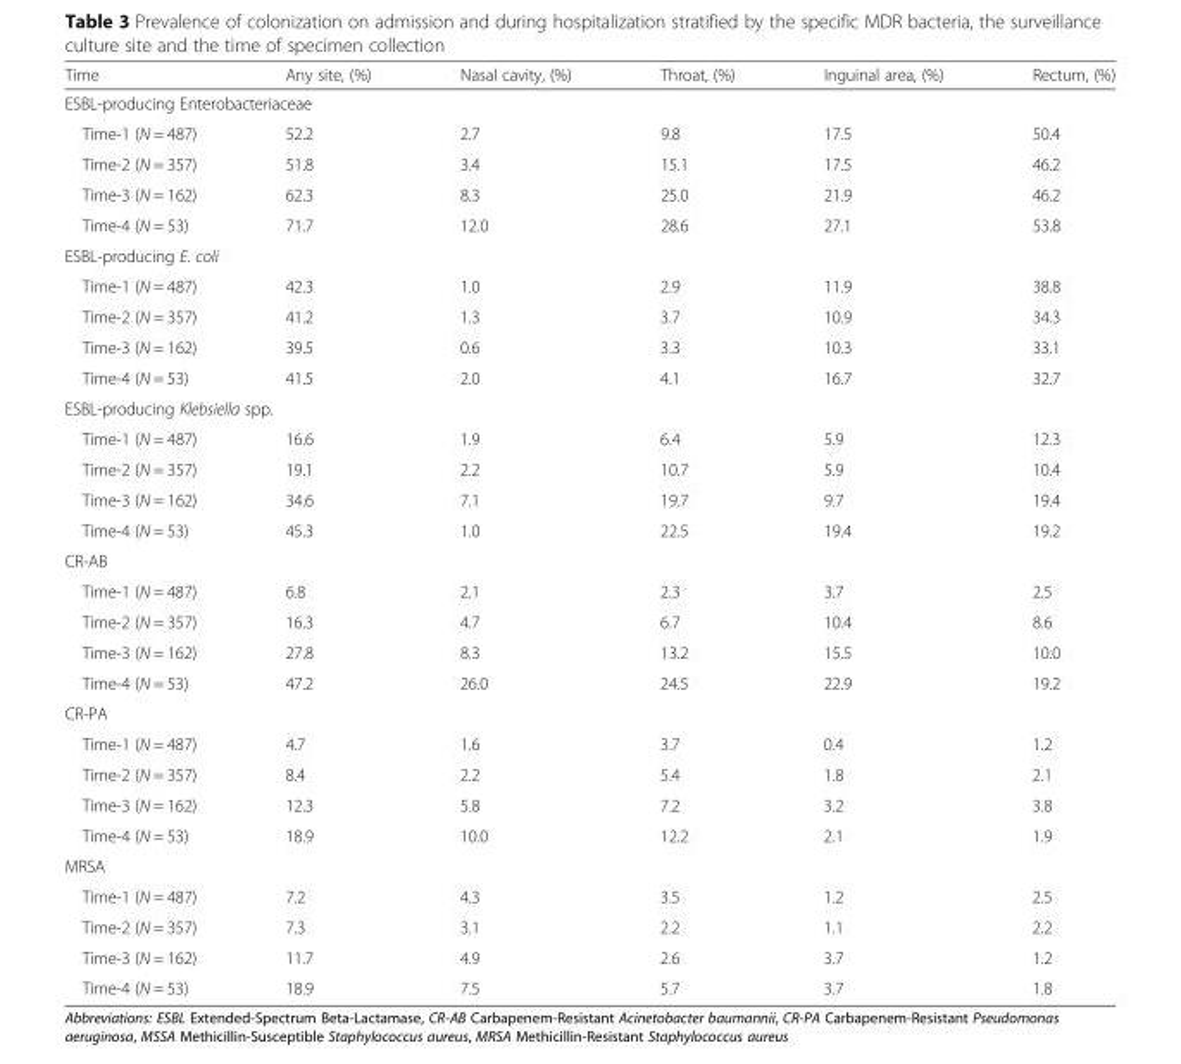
<table><thead><tr><td>Time</td><td>Any site, (%)</td><td>Nasal cavity, (%)</td><td>Throat, (%)</td><td>Inguinal area, (%)</td><td>Rectum, (%)</td></tr></thead><tbody><tr><td colspan="6">ESBL-producing Enterobacteriaceae</td></tr><tr><td>Time-1 (N = 487)</td><td>52.2</td><td>2.7</td><td>9.8</td><td>17.5</td><td>50.4</td></tr><tr><td>Time-2 (N = 357)</td><td>51.8</td><td>3.4</td><td>15.1</td><td>17.5</td><td>46.2</td></tr><tr><td>Time-3 (N = 162)</td><td>62.3</td><td>8.3</td><td>25.0</td><td>21.9</td><td>46.2</td></tr><tr><td>Time-4 (N = 53)</td><td>71.7</td><td>12.0</td><td>28.6</td><td>27.1</td><td>53.8</td></tr><tr><td colspan="6">ESBL-producing E. coli</td></tr><tr><td>Time-1 (N = 487)</td><td>42.3</td><td>1.0</td><td>2.9</td><td>11.9</td><td>38.8</td></tr><tr><td>Time-2 (N = 357)</td><td>41.2</td><td>1.3</td><td>3.7</td><td>10.9</td><td>34.3</td></tr><tr><td>Time-3 (N = 162)</td><td>39.5</td><td>0.6</td><td>3.3</td><td>10.3</td><td>33.1</td></tr><tr><td>Time-4 (N = 53)</td><td>41.5</td><td>2.0</td><td>4.1</td><td>16.7</td><td>32.7</td></tr><tr><td colspan="6">ESBL-producing Klebsiella spp.</td></tr><tr><td>Time-1 (N = 487)</td><td>16.6</td><td>1.9</td><td>6.4</td><td>5.9</td><td>12.3</td></tr><tr><td>Time-2 (N = 357)</td><td>19.1</td><td>2.2</td><td>10.7</td><td>5.9</td><td>10.4</td></tr><tr><td>Time-3 (N = 162)</td><td>34.6</td><td>7.1</td><td>19.7</td><td>9.7</td><td>19.4</td></tr><tr><td>Time-4 (N = 53)</td><td>45.3</td><td>1.0</td><td>22.5</td><td>19.4</td><td>19.2</td></tr><tr><td colspan="6">CR-AB</td></tr><tr><td>Time-1 (N = 487)</td><td>6.8</td><td>2.1</td><td>2.3</td><td>3.7</td><td>2.5</td></tr><tr><td>Time-2 (N = 357)</td><td>16.3</td><td>4.7</td><td>6.7</td><td>10.4</td><td>8.6</td></tr><tr><td>Time-3 (N = 162)</td><td>27.8</td><td>8.3</td><td>13.2</td><td>15.5</td><td>10.0</td></tr><tr><td>Time-4 (N = 53)</td><td>47.2</td><td>26.0</td><td>24.5</td><td>22.9</td><td>19.2</td></tr><tr><td colspan="6">CR-PA</td></tr><tr><td>Time-1 (N = 487)</td><td>4.7</td><td>1.6</td><td>3.7</td><td>0.4</td><td>1.2</td></tr><tr><td>Time-2 (N = 357)</td><td>8.4</td><td>2.2</td><td>5.4</td><td>1.8</td><td>2.1</td></tr><tr><td>Time-3 (N = 162)</td><td>12.3</td><td>5.8</td><td>7.2</td><td>3.2</td><td>3.8</td></tr><tr><td>Time-4 (N = 53)</td><td>18.9</td><td>10.0</td><td>12.2</td><td>2.1</td><td>1.9</td></tr><tr><td colspan="6">MRSA</td></tr><tr><td>Time-1 (N = 487)</td><td>7.2</td><td>4.3</td><td>3.5</td><td>1.2</td><td>2.5</td></tr><tr><td>Time-2 (N = 357)</td><td>7.3</td><td>3.1</td><td>2.2</td><td>1.1</td><td>2.2</td></tr><tr><td>Time-3 (N = 162)</td><td>11.7</td><td>4.9</td><td>2.6</td><td>3.7</td><td>1.2</td></tr><tr><td>Time-4 (N = 53)</td><td>18.9</td><td>7.5</td><td>5.7</td><td>3.7</td><td>1.8</td></tr></tbody></table>